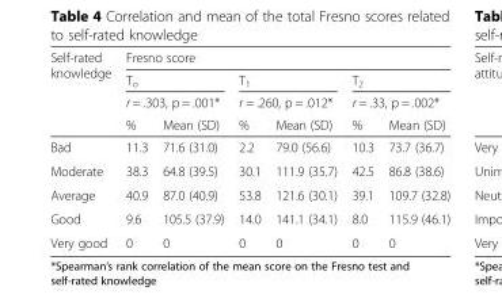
<table><thead><tr><td rowspan="4">Self-rated knowledge</td><td colspan="6">Fresno score</td></tr><tr><td rowspan="2" colspan="2">T<sub>o</sub> r = .303, p = .001*</td><td rowspan="2" colspan="2">T<sub>1</sub> r = .260, p = .012*</td><td rowspan="2" colspan="2">T<sub>2</sub> r = .33, p = .002*</td></tr><tr></tr><tr><td>%</td><td>Mean (SD)</td><td>%</td><td>Mean (SD)</td><td>%</td><td>Mean (SD)</td></tr></thead><tbody><tr><td>Bad</td><td>11.3</td><td>71.6 (31.0)</td><td>2.2</td><td>79.0 (56.6)</td><td>10.3</td><td>73.7 (36.7)</td></tr><tr><td>Moderate</td><td>38.3</td><td>64.8 (39.5)</td><td>30.1</td><td>111.9 (35.7)</td><td>42.5</td><td>86.8 (38.6)</td></tr><tr><td>Average</td><td>40.9</td><td>87.0 (40.9)</td><td>53.8</td><td>121.6 (30.1)</td><td>39.1</td><td>109.7 (32.8)</td></tr><tr><td>Good</td><td>9.6</td><td>105.5 (37.9)</td><td>14.0</td><td>141.1 (34.1)</td><td>8.0</td><td>115.9 (46.1)</td></tr><tr><td>Very good</td><td>0</td><td>0</td><td>0</td><td>0</td><td>0</td><td>0</td></tr></tbody></table>